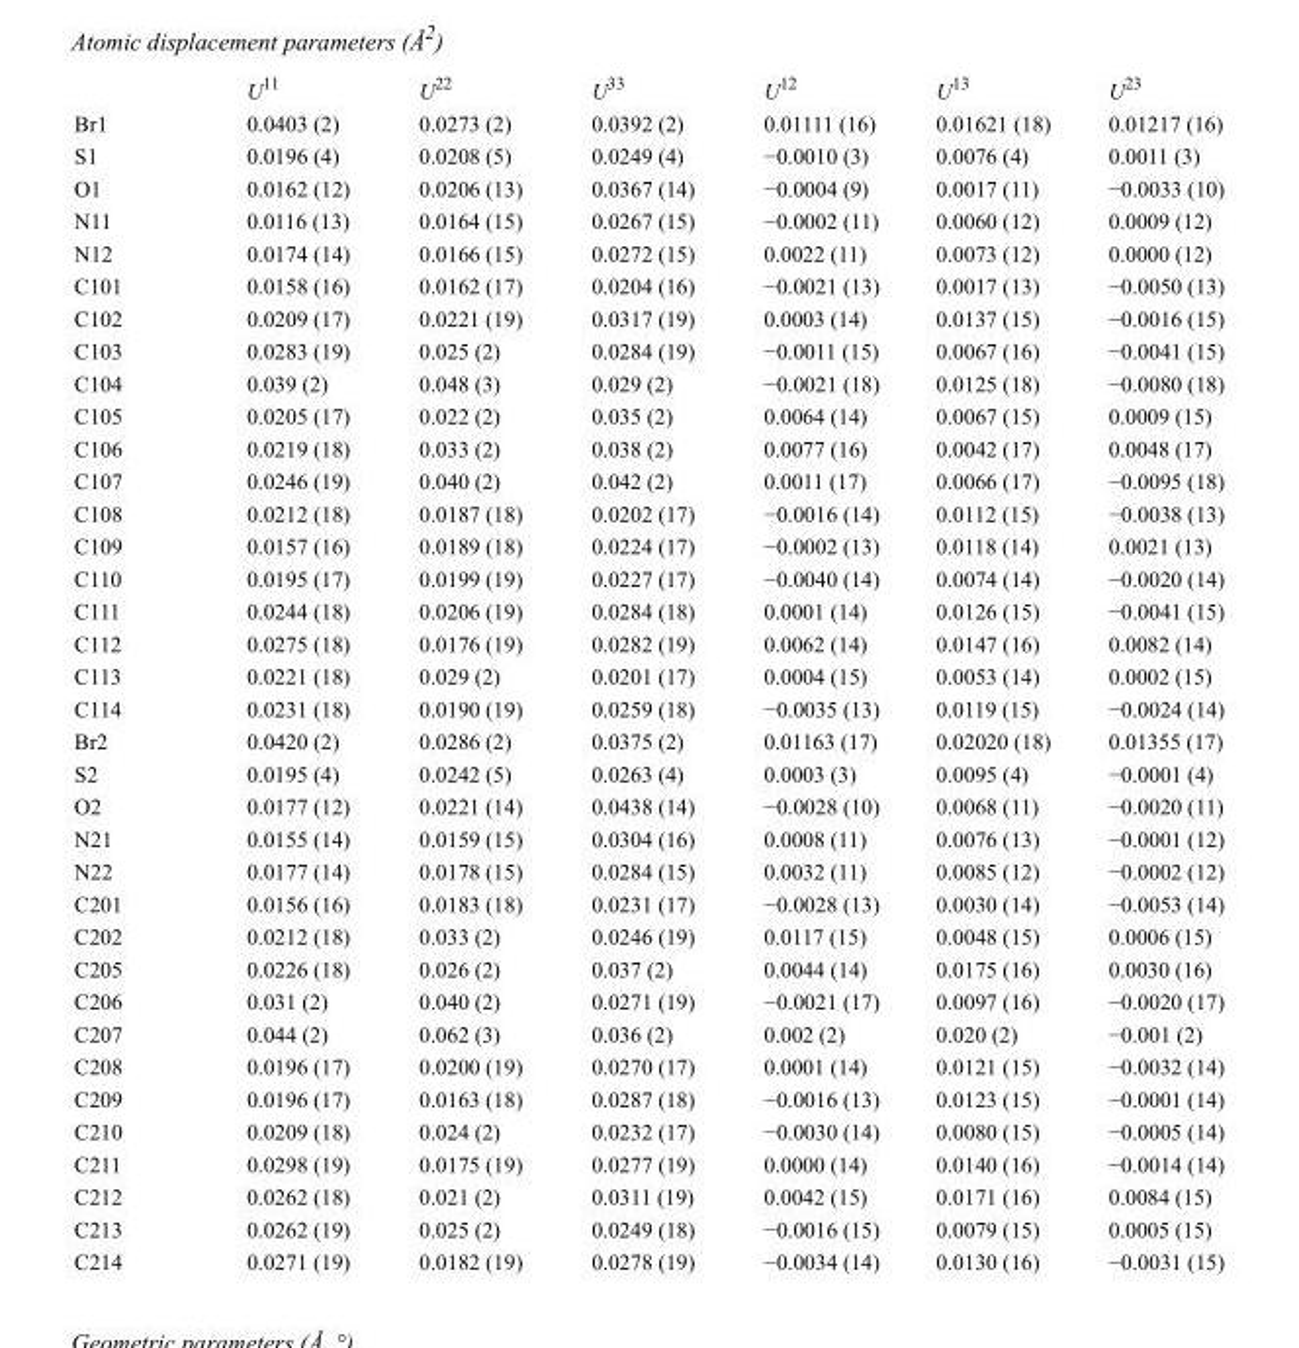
<table><thead><tr><td></td><td>U<sup>11</sup></td><td>U<sup>22</sup></td><td>U<sup>33</sup></td><td>U<sup>12</sup></td><td>U<sup>13</sup></td><td>U<sup>23</sup></td></tr></thead><tbody><tr><td>Br1</td><td>0.0403 (2)</td><td>0.0273 (2)</td><td>0.0392 (2)</td><td>0.01111 (16)</td><td>0.01621 (18)</td><td>0.01217 (16)</td></tr><tr><td>S1</td><td>0.0196 (4)</td><td>0.0208 (5)</td><td>0.0249 (4)</td><td>−0.0010 (3)</td><td>0.0076 (4)</td><td>0.0011 (3)</td></tr><tr><td>O1</td><td>0.0162 (12)</td><td>0.0206 (13)</td><td>0.0367 (14)</td><td>−0.0004 (9)</td><td>0.0017 (11)</td><td>−0.0033 (10)</td></tr><tr><td>N11</td><td>0.0116 (13)</td><td>0.0164 (15)</td><td>0.0267 (15)</td><td>−0.0002 (11)</td><td>0.0060 (12)</td><td>0.0009 (12)</td></tr><tr><td>N12</td><td>0.0174 (14)</td><td>0.0166 (15)</td><td>0.0272 (15)</td><td>0.0022 (11)</td><td>0.0073 (12)</td><td>0.0000 (12)</td></tr><tr><td>C101</td><td>0.0158 (16)</td><td>0.0162 (17)</td><td>0.0204 (16)</td><td>−0.0021 (13)</td><td>0.0017 (13)</td><td>−0.0050 (13)</td></tr><tr><td>C102</td><td>0.0209 (17)</td><td>0.0221 (19)</td><td>0.0317 (19)</td><td>0.0003 (14)</td><td>0.0137 (15)</td><td>−0.0016 (15)</td></tr><tr><td>C103</td><td>0.0283 (19)</td><td>0.025 (2)</td><td>0.0284 (19)</td><td>−0.0011 (15)</td><td>0.0067 (16)</td><td>−0.0041 (15)</td></tr><tr><td>C104</td><td>0.039 (2)</td><td>0.048 (3)</td><td>0.029 (2)</td><td>−0.0021 (18)</td><td>0.0125 (18)</td><td>−0.0080 (18)</td></tr><tr><td>C105</td><td>0.0205 (17)</td><td>0.022 (2)</td><td>0.035 (2)</td><td>0.0064 (14)</td><td>0.0067 (15)</td><td>0.0009 (15)</td></tr><tr><td>C106</td><td>0.0219 (18)</td><td>0.033 (2)</td><td>0.038 (2)</td><td>0.0077 (16)</td><td>0.0042 (17)</td><td>0.0048 (17)</td></tr><tr><td>C107</td><td>0.0246 (19)</td><td>0.040 (2)</td><td>0.042 (2)</td><td>0.0011 (17)</td><td>0.0066 (17)</td><td>−0.0095 (18)</td></tr><tr><td>C108</td><td>0.0212 (18)</td><td>0.0187 (18)</td><td>0.0202 (17)</td><td>−0.0016 (14)</td><td>0.0112 (15)</td><td>−0.0038 (13)</td></tr><tr><td>C109</td><td>0.0157 (16)</td><td>0.0189 (18)</td><td>0.0224 (17)</td><td>−0.0002 (13)</td><td>0.0118 (14)</td><td>0.0021 (13)</td></tr><tr><td>C110</td><td>0.0195 (17)</td><td>0.0199 (19)</td><td>0.0227 (17)</td><td>−0.0040 (14)</td><td>0.0074 (14)</td><td>−0.0020 (14)</td></tr><tr><td>C111</td><td>0.0244 (18)</td><td>0.0206 (19)</td><td>0.0284 (18)</td><td>0.0001 (14)</td><td>0.0126 (15)</td><td>−0.0041 (15)</td></tr><tr><td>C112</td><td>0.0275 (18)</td><td>0.0176 (19)</td><td>0.0282 (19)</td><td>0.0062 (14)</td><td>0.0147 (16)</td><td>0.0082 (14)</td></tr><tr><td>C113</td><td>0.0221 (18)</td><td>0.029 (2)</td><td>0.0201 (17)</td><td>0.0004 (15)</td><td>0.0053 (14)</td><td>0.0002 (15)</td></tr><tr><td>C114</td><td>0.0231 (18)</td><td>0.0190 (19)</td><td>0.0259 (18)</td><td>−0.0035 (13)</td><td>0.0119 (15)</td><td>−0.0024 (14)</td></tr><tr><td>Br2</td><td>0.0420 (2)</td><td>0.0286 (2)</td><td>0.0375 (2)</td><td>0.01163 (17)</td><td>0.02020 (18)</td><td>0.01355 (17)</td></tr><tr><td>S2</td><td>0.0195 (4)</td><td>0.0242 (5)</td><td>0.0263 (4)</td><td>0.0003 (3)</td><td>0.0095 (4)</td><td>−0.0001 (4)</td></tr><tr><td>O2</td><td>0.0177 (12)</td><td>0.0221 (14)</td><td>0.0438 (14)</td><td>−0.0028 (10)</td><td>0.0068 (11)</td><td>−0.0020 (11)</td></tr><tr><td>N21</td><td>0.0155 (14)</td><td>0.0159 (15)</td><td>0.0304 (16)</td><td>0.0008 (11)</td><td>0.0076 (13)</td><td>−0.0001 (12)</td></tr><tr><td>N22</td><td>0.0177 (14)</td><td>0.0178 (15)</td><td>0.0284 (15)</td><td>0.0032 (11)</td><td>0.0085 (12)</td><td>−0.0002 (12)</td></tr><tr><td>C201</td><td>0.0156 (16)</td><td>0.0183 (18)</td><td>0.0231 (17)</td><td>−0.0028 (13)</td><td>0.0030 (14)</td><td>−0.0053 (14)</td></tr><tr><td>C202</td><td>0.0212 (18)</td><td>0.033 (2)</td><td>0.0246 (19)</td><td>0.0117 (15)</td><td>0.0048 (15)</td><td>0.0006 (15)</td></tr><tr><td>C205</td><td>0.0226 (18)</td><td>0.026 (2)</td><td>0.037 (2)</td><td>0.0044 (14)</td><td>0.0175 (16)</td><td>0.0030 (16)</td></tr><tr><td>C206</td><td>0.031 (2)</td><td>0.040 (2)</td><td>0.0271 (19)</td><td>−0.0021 (17)</td><td>0.0097 (16)</td><td>−0.0020 (17)</td></tr><tr><td>C207</td><td>0.044 (2)</td><td>0.062 (3)</td><td>0.036 (2)</td><td>0.002 (2)</td><td>0.020 (2)</td><td>−0.001 (2)</td></tr><tr><td>C208</td><td>0.0196 (17)</td><td>0.0200 (19)</td><td>0.0270 (17)</td><td>0.0001 (14)</td><td>0.0121 (15)</td><td>−0.0032 (14)</td></tr><tr><td>C209</td><td>0.0196 (17)</td><td>0.0163 (18)</td><td>0.0287 (18)</td><td>−0.0016 (13)</td><td>0.0123 (15)</td><td>−0.0001 (14)</td></tr><tr><td>C210</td><td>0.0209 (18)</td><td>0.024 (2)</td><td>0.0232 (17)</td><td>−0.0030 (14)</td><td>0.0080 (15)</td><td>−0.0005 (14)</td></tr><tr><td>C211</td><td>0.0298 (19)</td><td>0.0175 (19)</td><td>0.0277 (19)</td><td>0.0000 (14)</td><td>0.0140 (16)</td><td>−0.0014 (14)</td></tr><tr><td>C212</td><td>0.0262 (18)</td><td>0.021 (2)</td><td>0.0311 (19)</td><td>0.0042 (15)</td><td>0.0171 (16)</td><td>0.0084 (15)</td></tr><tr><td>C213</td><td>0.0262 (19)</td><td>0.025 (2)</td><td>0.0249 (18)</td><td>−0.0016 (15)</td><td>0.0079 (15)</td><td>0.0005 (15)</td></tr><tr><td>C214</td><td>0.0271 (19)</td><td>0.0182 (19)</td><td>0.0278 (19)</td><td>−0.0034 (14)</td><td>0.0130 (16)</td><td>−0.0031 (15)</td></tr></tbody></table>